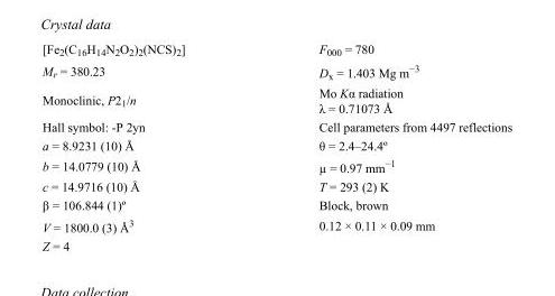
<table><tbody><tr><td>[Fe2(C16H14N2O2)2(NCS)2]</td><td>F000 = 780</td></tr><tr><td>Mr = 380.23</td><td>Dx = 1.403 Mg m−3</td></tr><tr><td>Monoclinic, P21/n</td><td>Mo Kα radiation λ = 0.71073 Å</td></tr><tr><td>Hall symbol: -P 2yn</td><td>Cell parameters from 4497 reflections</td></tr><tr><td>a = 8.9231 (10) Å</td><td>θ = 2.4–24.4º</td></tr><tr><td>b = 14.0779 (10) Å</td><td>µ = 0.97 mm−1</td></tr><tr><td>c = 14.9716 (10) Å</td><td>T = 293 (2) K</td></tr><tr><td>β = 106.844 (1)º</td><td>Block, brown</td></tr><tr><td>V = 1800.0 (3) Å3</td><td>0.12 × 0.11 × 0.09 mm</td></tr><tr><td>Z = 4</td><td></td></tr></tbody></table>